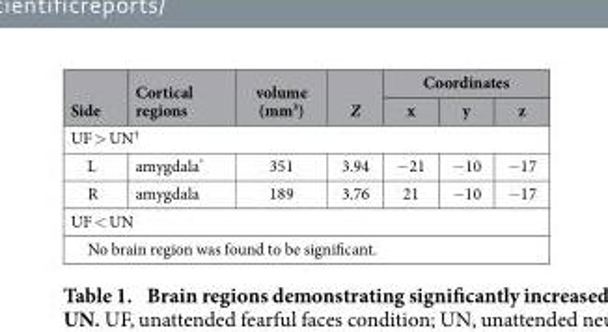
<table><thead><tr><td rowspan="2">Side</td><td rowspan="2">Cortical regions</td><td rowspan="2">volume (mm<sup>3</sup>)</td><td rowspan="2">Z</td><td colspan="3">Coordinates</td></tr><tr><td>x</td><td>y</td><td>z</td></tr></thead><tbody><tr><td colspan="7">UF &gt; UN†</td></tr><tr><td>L</td><td>amygdala*</td><td>351</td><td>3.94</td><td>− 21</td><td>− 10</td><td>− 17</td></tr><tr><td>R</td><td>amygdala</td><td>189</td><td>3.76</td><td>21</td><td>− 10</td><td>− 17</td></tr><tr><td colspan="7">UF &lt; UN</td></tr><tr><td colspan="7">No brain region was found to be significant.</td></tr></tbody></table>